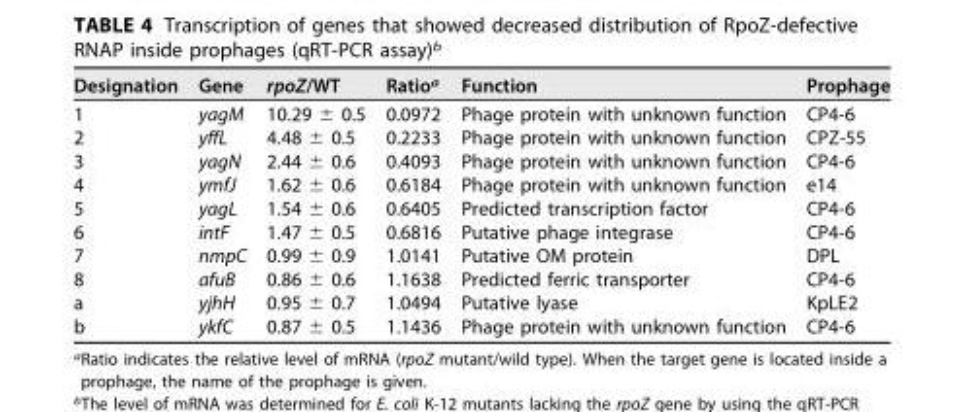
<table><thead><tr><td>Designation</td><td>Gene</td><td>rpoZ/WT</td><td>Ratio<sup>a</sup></td><td>Function</td><td>Prophage</td></tr></thead><tbody><tr><td>1</td><td>yagM</td><td>10.29 ± 0.5</td><td>0.0972</td><td>Phage protein with unknown function</td><td>CP4-6</td></tr><tr><td>2</td><td>yffL</td><td>4.48 ± 0.5</td><td>0.2233</td><td>Phage protein with unknown function</td><td>CPZ-55</td></tr><tr><td>3</td><td>yagN</td><td>2.44 ± 0.6</td><td>0.4093</td><td>Phage protein with unknown function</td><td>CP4-6</td></tr><tr><td>4</td><td>ymfJ</td><td>1.62 ± 0.6</td><td>0.6184</td><td>Phage protein with unknown function</td><td>e14</td></tr><tr><td>5</td><td>yagL</td><td>1.54 ± 0.6</td><td>0.6405</td><td>Predicted transcription factor</td><td>CP4-6</td></tr><tr><td>6</td><td>intF</td><td>1.47 ± 0.5</td><td>0.6816</td><td>Putative phage integrase</td><td>CP4-6</td></tr><tr><td>7</td><td>nmpC</td><td>0.99 ± 0.9</td><td>1.0141</td><td>Putative OM protein</td><td>DPL</td></tr><tr><td>8</td><td>afuB</td><td>0.86 ± 0.6</td><td>1.1638</td><td>Predicted ferric transporter</td><td>CP4-6</td></tr><tr><td>a</td><td>yjhH</td><td>0.95 ± 0.7</td><td>1.0494</td><td>Putative lyase</td><td>KpLE2</td></tr><tr><td>b</td><td>ykfC</td><td>0.87 ± 0.5</td><td>1.1436</td><td>Phage protein with unknown function</td><td>CP4-6</td></tr></tbody></table>